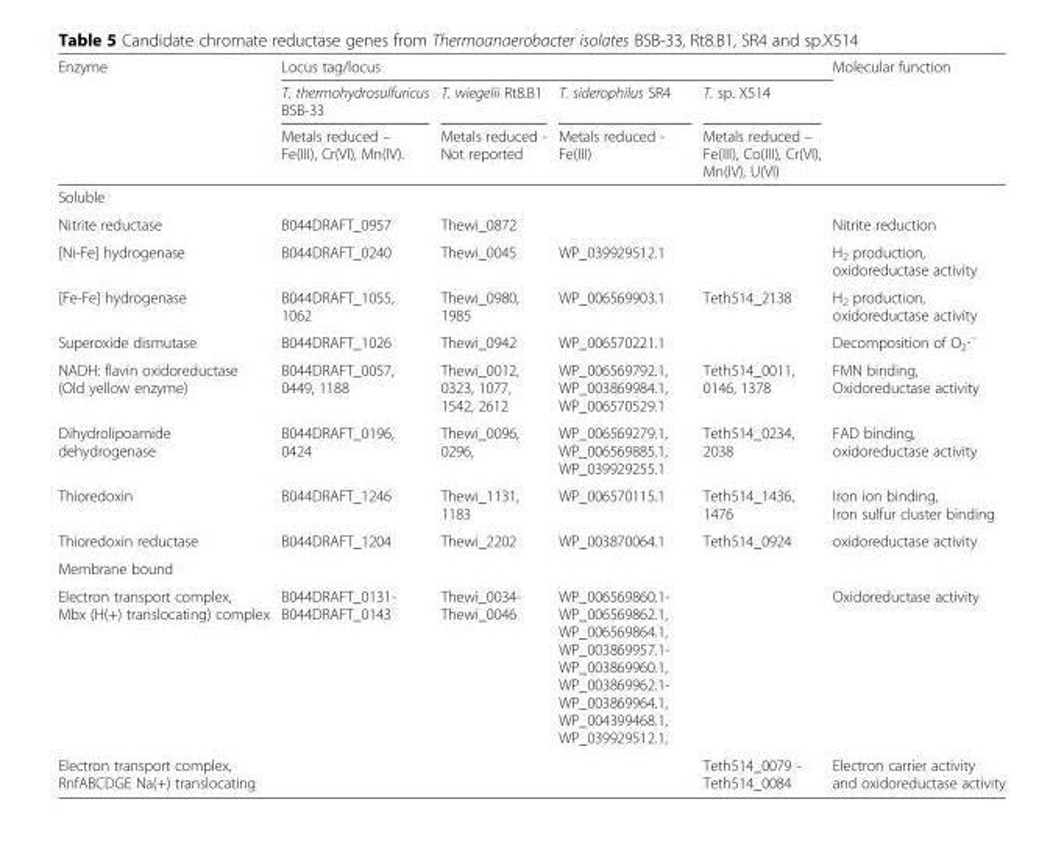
<table><thead><tr><td rowspan="3">Enzyme</td><td colspan="4">Locus tag/locus</td><td rowspan="3">Molecular function</td></tr><tr><td rowspan="2">T. thermohydrosulfuricus BSB-33 Metals reduced – Fe(III), Cr(VI), Mn(IV).</td><td rowspan="2">T. wiegelii Rt8.B1 Metals reduced - Not reported</td><td rowspan="2">T. siderophilus SR4 Metals reduced - Fe(III)</td><td rowspan="2">T. sp. X514 Metals reduced – Fe(III), Co(III), Cr(VI), Mn(IV), U(VI)</td></tr><tr></tr></thead><tbody><tr><td colspan="6">Soluble</td></tr><tr><td>Nitrite reductase</td><td>B044DRAFT_0957</td><td>Thewi_0872</td><td></td><td></td><td>Nitrite reduction</td></tr><tr><td>[Ni-Fe] hydrogenase</td><td>B044DRAFT_0240</td><td>Thewi_0045</td><td>WP_039929512.1</td><td></td><td>H<sub>2</sub> production, oxidoreductase activity</td></tr><tr><td>[Fe-Fe] hydrogenase</td><td>B044DRAFT_1055, 1062</td><td>Thewi_0980, 1985</td><td>WP_006569903.1</td><td>Teth514_2138</td><td>H<sub>2</sub> production, oxidoreductase activity</td></tr><tr><td>Superoxide dismutase</td><td>B044DRAFT_1026</td><td>Thewi_0942</td><td>WP_006570221.1</td><td></td><td>Decomposition of O<sub>2</sub>∙<sup>−</sup></td></tr><tr><td>NADH: flavin oxidoreductase (Old yellow enzyme)</td><td>B044DRAFT_0057, 0449, 1188</td><td>Thewi_0012, 0323, 1077, 1542, 2612</td><td>WP_006569792.1, WP_003869984.1, WP_006570529.1</td><td>Teth514_0011, 0146, 1378</td><td>FMN binding, Oxidoreductase activity</td></tr><tr><td>Dihydrolipoamide dehydrogenase</td><td>B044DRAFT_0196, 0424</td><td>Thewi_0096, 0296,</td><td>WP_006569279.1, WP_006569885.1, WP_039929255.1</td><td>Teth514_0234, 2038</td><td>FAD binding, oxidoreductase activity</td></tr><tr><td>Thioredoxin</td><td>B044DRAFT_1246</td><td>Thewi_1131, 1183</td><td>WP_006570115.1</td><td>Teth514_1436, 1476</td><td>Iron ion binding, Iron sulfur cluster binding</td></tr><tr><td>Thioredoxin reductase</td><td>B044DRAFT_1204</td><td>Thewi_2202</td><td>WP_003870064.1</td><td>Teth514_0924</td><td>oxidoreductase activity</td></tr><tr><td colspan="6">Membrane bound</td></tr><tr><td>Electron transport complex, Mbx (H(+) translocating) complex</td><td>B044DRAFT_0131- B044DRAFT_0143</td><td>Thewi_0034- Thewi_0046</td><td>WP_006569860.1- WP_006569862.1, WP_006569864.1, WP_003869957.1- WP_003869960.1, WP_003869962.1- WP_003869964.1, WP_004399468.1, WP_039929512.1,</td><td></td><td>Oxidoreductase activity</td></tr><tr><td>Electron transport complex, RnfABCDGE Na(+) translocating</td><td></td><td></td><td></td><td>Teth514_0079 - Teth514_0084</td><td>Electron carrier activity and oxidoreductase activity</td></tr></tbody></table>